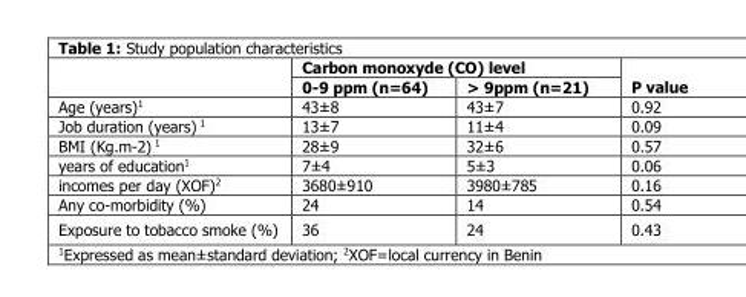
<table><thead><tr><td rowspan="2"></td><td colspan="2">Carbon monoxyde (CO) level</td><td rowspan="2">P value</td></tr><tr><td>0-9 ppm (n=64)</td><td>&gt; 9ppm (n=21)</td></tr></thead><tbody><tr><td>Age (years)<sup>1</sup></td><td>43±8</td><td>43±7</td><td>0.92</td></tr><tr><td>Job duration (years) <sup>1</sup></td><td>13±7</td><td>11±4</td><td>0.09</td></tr><tr><td>BMI (Kg.m-2) <sup>1</sup></td><td>28±9</td><td>32±6</td><td>0.57</td></tr><tr><td>years of education<sup>1</sup></td><td>7±4</td><td>5±3</td><td>0.06</td></tr><tr><td>incomes per day (XOF)<sup>2</sup></td><td>3680±910</td><td>3980±785</td><td>0.16</td></tr><tr><td>Any co-morbidity (%)</td><td>24</td><td>14</td><td>0.54</td></tr><tr><td>Exposure to tobacco smoke (%)</td><td>36</td><td>24</td><td>0.43</td></tr></tbody></table>